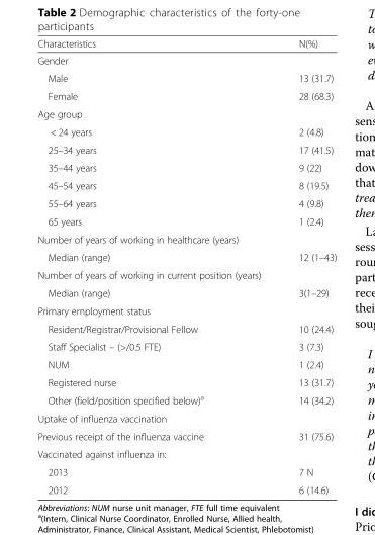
<table><thead><tr><td>Characteristics</td><td>N(%)</td></tr></thead><tbody><tr><td colspan="2">Gender</td></tr><tr><td>Male</td><td>13 (31.7)</td></tr><tr><td>Female</td><td>28 (68.3)</td></tr><tr><td colspan="2">Age group</td></tr><tr><td>&lt; 24 years</td><td>2 (4.8)</td></tr><tr><td>25–34 years</td><td>17 (41.5)</td></tr><tr><td>35–44 years</td><td>9 (22)</td></tr><tr><td>45–54 years</td><td>8 (19.5)</td></tr><tr><td>55–64 years</td><td>4 (9.8)</td></tr><tr><td>65 years</td><td>1 (2.4)</td></tr><tr><td colspan="2">Number of years of working in healthcare (years)</td></tr><tr><td>Median (range)</td><td>12 (1–43)</td></tr><tr><td colspan="2">Number of years of working in current position (years)</td></tr><tr><td>Median (range)</td><td>3(1–29)</td></tr><tr><td colspan="2">Primary employment status</td></tr><tr><td>Resident/Registrar/Provisional Fellow</td><td>10 (24.4)</td></tr><tr><td>Staff Specialist – (&gt;/0.5 FTE)</td><td>3 (7.3)</td></tr><tr><td>NUM</td><td>1 (2.4)</td></tr><tr><td>Registered nurse</td><td>13 (31.7)</td></tr><tr><td>Other (field/position specified below)<sup>a</sup></td><td>14 (34.2)</td></tr><tr><td colspan="2">Uptake of influenza vaccination</td></tr><tr><td>Previous receipt of the influenza vaccine</td><td>31 (75.6)</td></tr><tr><td colspan="2">Vaccinated against influenza in:</td></tr><tr><td>2013</td><td>7 N</td></tr><tr><td>2012</td><td>6 (14.6)</td></tr></tbody></table>